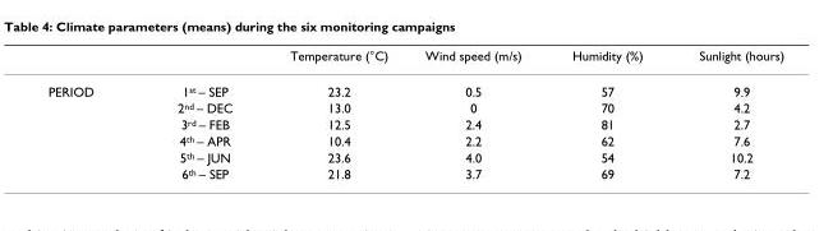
<table><thead><tr><td></td><td></td><td>Temperature (°C)</td><td>Wind speed (m/s)</td><td>Humidity (%)</td><td>Sunlight (hours)</td></tr></thead><tbody><tr><td rowspan="6">PERIOD</td><td>1st – SEP</td><td>23.2</td><td>0.5</td><td>57</td><td>9.9</td></tr><tr><td>2nd – DEC</td><td>13.0</td><td>0</td><td>70</td><td>4.2</td></tr><tr><td>3rd – FEB</td><td>12.5</td><td>2.4</td><td>81</td><td>2.7</td></tr><tr><td>4th – APR</td><td>10.4</td><td>2.2</td><td>62</td><td>7.6</td></tr><tr><td>5th – JUN</td><td>23.6</td><td>4.0</td><td>54</td><td>10.2</td></tr><tr><td>6th – SEP</td><td>21.8</td><td>3.7</td><td>69</td><td>7.2</td></tr></tbody></table>